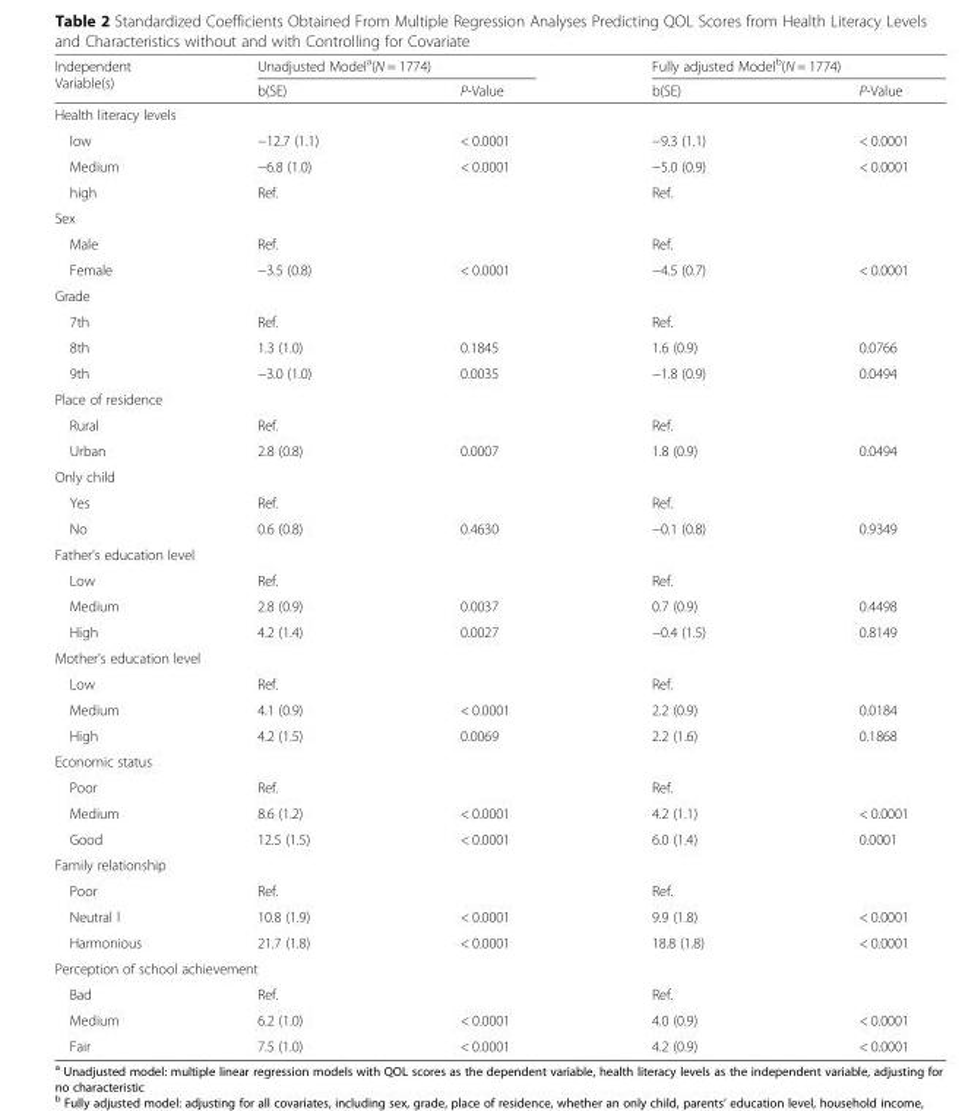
<table><thead><tr><td rowspan="2">Independent Variable(s)</td><td colspan="2">Unadjusted Model<sup>a</sup>(N = 1774)</td><td colspan="2">Fully adjusted Model<sup>b</sup>(N = 1774)</td></tr><tr><td>b(SE)</td><td>P-Value</td><td>b(SE)</td><td>P-Value</td></tr></thead><tbody><tr><td colspan="5">Health literacy levels</td></tr><tr><td>low</td><td>−12.7 (1.1)</td><td>&lt; 0.0001</td><td>−9.3 (1.1)</td><td>&lt; 0.0001</td></tr><tr><td>Medium</td><td>−6.8 (1.0)</td><td>&lt; 0.0001</td><td>−5.0 (0.9)</td><td>&lt; 0.0001</td></tr><tr><td>high</td><td>Ref.</td><td></td><td>Ref.</td><td></td></tr><tr><td colspan="5">Sex</td></tr><tr><td>Male</td><td>Ref.</td><td></td><td>Ref.</td><td></td></tr><tr><td>Female</td><td>−3.5 (0.8)</td><td>&lt; 0.0001</td><td>−4.5 (0.7)</td><td>&lt; 0.0001</td></tr><tr><td colspan="5">Grade</td></tr><tr><td>7th</td><td>Ref.</td><td></td><td>Ref.</td><td></td></tr><tr><td>8th</td><td>1.3 (1.0)</td><td>0.1845</td><td>1.6 (0.9)</td><td>0.0766</td></tr><tr><td>9th</td><td>−3.0 (1.0)</td><td>0.0035</td><td>−1.8 (0.9)</td><td>0.0494</td></tr><tr><td colspan="5">Place of residence</td></tr><tr><td>Rural</td><td>Ref.</td><td></td><td>Ref.</td><td></td></tr><tr><td>Urban</td><td>2.8 (0.8)</td><td>0.0007</td><td>1.8 (0.9)</td><td>0.0494</td></tr><tr><td colspan="5">Only child</td></tr><tr><td>Yes</td><td>Ref.</td><td></td><td>Ref.</td><td></td></tr><tr><td>No</td><td>0.6 (0.8)</td><td>0.4630</td><td>−0.1 (0.8)</td><td>0.9349</td></tr><tr><td colspan="5">Father’s education level</td></tr><tr><td>Low</td><td>Ref.</td><td></td><td>Ref.</td><td></td></tr><tr><td>Medium</td><td>2.8 (0.9)</td><td>0.0037</td><td>0.7 (0.9)</td><td>0.4498</td></tr><tr><td>High</td><td>4.2 (1.4)</td><td>0.0027</td><td>−0.4 (1.5)</td><td>0.8149</td></tr><tr><td colspan="5">Mother’s education level</td></tr><tr><td>Low</td><td>Ref.</td><td></td><td>Ref.</td><td></td></tr><tr><td>Medium</td><td>4.1 (0.9)</td><td>&lt; 0.0001</td><td>2.2 (0.9)</td><td>0.0184</td></tr><tr><td>High</td><td>4.2 (1.5)</td><td>0.0069</td><td>2.2 (1.6)</td><td>0.1868</td></tr><tr><td colspan="5">Economic status</td></tr><tr><td>Poor</td><td>Ref.</td><td></td><td>Ref.</td><td></td></tr><tr><td>Medium</td><td>8.6 (1.2)</td><td>&lt; 0.0001</td><td>4.2 (1.1)</td><td>&lt; 0.0001</td></tr><tr><td>Good</td><td>12.5 (1.5)</td><td>&lt; 0.0001</td><td>6.0 (1.4)</td><td>0.0001</td></tr><tr><td colspan="5">Family relationship</td></tr><tr><td>Poor</td><td>Ref.</td><td></td><td>Ref.</td><td></td></tr><tr><td>Neutral l</td><td>10.8 (1.9)</td><td>&lt; 0.0001</td><td>9.9 (1.8)</td><td>&lt; 0.0001</td></tr><tr><td>Harmonious</td><td>21.7 (1.8)</td><td>&lt; 0.0001</td><td>18.8 (1.8)</td><td>&lt; 0.0001</td></tr><tr><td colspan="5">Perception of school achievement</td></tr><tr><td>Bad</td><td>Ref.</td><td></td><td>Ref.</td><td></td></tr><tr><td>Medium</td><td>6.2 (1.0)</td><td>&lt; 0.0001</td><td>4.0 (0.9)</td><td>&lt; 0.0001</td></tr><tr><td>Fair</td><td>7.5 (1.0)</td><td>&lt; 0.0001</td><td>4.2 (0.9)</td><td>&lt; 0.0001</td></tr></tbody></table>